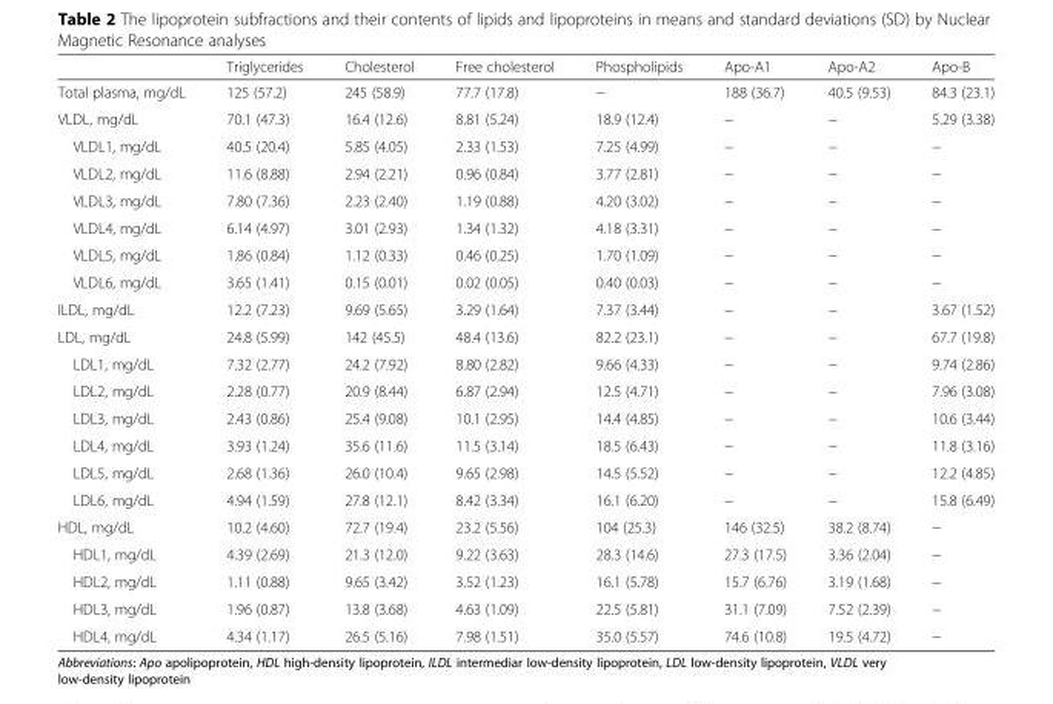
<table><thead><tr><td></td><td>Triglycerides</td><td>Cholesterol</td><td>Free cholesterol</td><td>Phospholipids</td><td>Apo-A1</td><td>Apo-A2</td><td>Apo-B</td></tr></thead><tbody><tr><td>Total plasma, mg/dL</td><td>125 (57.2)</td><td>245 (58.9)</td><td>77.7 (17.8)</td><td>−</td><td>188 (36.7)</td><td>40.5 (9.53)</td><td>84.3 (23.1)</td></tr><tr><td>VLDL, mg/dL</td><td>70.1 (47.3)</td><td>16.4 (12.6)</td><td>8.81 (5.24)</td><td>18.9 (12.4)</td><td>−</td><td>−</td><td>5.29 (3.38)</td></tr><tr><td>VLDL1, mg/dL</td><td>40.5 (20.4)</td><td>5.85 (4.05)</td><td>2.33 (1.53)</td><td>7.25 (4.99)</td><td>−</td><td>−</td><td>−</td></tr><tr><td>VLDL2, mg/dL</td><td>11.6 (8.88)</td><td>2.94 (2.21)</td><td>0.96 (0.84)</td><td>3.77 (2.81)</td><td>−</td><td>−</td><td>−</td></tr><tr><td>VLDL3, mg/dL</td><td>7.80 (7.36)</td><td>2.23 (2.40)</td><td>1.19 (0.88)</td><td>4.20 (3.02)</td><td>−</td><td>−</td><td>−</td></tr><tr><td>VLDL4, mg/dL</td><td>6.14 (4.97)</td><td>3.01 (2.93)</td><td>1.34 (1.32)</td><td>4.18 (3.31)</td><td>−</td><td>−</td><td>−</td></tr><tr><td>VLDL5, mg/dL</td><td>1.86 (0.84)</td><td>1.12 (0.33)</td><td>0.46 (0.25)</td><td>1.70 (1.09)</td><td>−</td><td>−</td><td>−</td></tr><tr><td>VLDL6, mg/dL</td><td>3.65 (1.41)</td><td>0.15 (0.01)</td><td>0.02 (0.05)</td><td>0.40 (0.03)</td><td>−</td><td>−</td><td>−</td></tr><tr><td>ILDL, mg/dL</td><td>12.2 (7.23)</td><td>9.69 (5.65)</td><td>3.29 (1.64)</td><td>7.37 (3.44)</td><td>−</td><td>−</td><td>3.67 (1.52)</td></tr><tr><td>LDL, mg/dL</td><td>24.8 (5.99)</td><td>142 (45.5)</td><td>48.4 (13.6)</td><td>82.2 (23.1)</td><td>−</td><td>−</td><td>67.7 (19.8)</td></tr><tr><td>LDL1, mg/dL</td><td>7.32 (2.77)</td><td>24.2 (7.92)</td><td>8.80 (2.82)</td><td>9.66 (4.33)</td><td>−</td><td>−</td><td>9.74 (2.86)</td></tr><tr><td>LDL2, mg/dL</td><td>2.28 (0.77)</td><td>20.9 (8.44)</td><td>6.87 (2.94)</td><td>12.5 (4.71)</td><td>−</td><td>−</td><td>7.96 (3.08)</td></tr><tr><td>LDL3, mg/dL</td><td>2.43 (0.86)</td><td>25.4 (9.08)</td><td>10.1 (2.95)</td><td>14.4 (4.85)</td><td>−</td><td>−</td><td>10.6 (3.44)</td></tr><tr><td>LDL4, mg/dL</td><td>3.93 (1.24)</td><td>35.6 (11.6)</td><td>11.5 (3.14)</td><td>18.5 (6.43)</td><td>−</td><td>−</td><td>11.8 (3.16)</td></tr><tr><td>LDL5, mg/dL</td><td>2.68 (1.36)</td><td>26.0 (10.4)</td><td>9.65 (2.98)</td><td>14.5 (5.52)</td><td>−</td><td>−</td><td>12.2 (4.85)</td></tr><tr><td>LDL6, mg/dL</td><td>4.94 (1.59)</td><td>27.8 (12.1)</td><td>8.42 (3.34)</td><td>16.1 (6.20)</td><td>−</td><td>−</td><td>15.8 (6.49)</td></tr><tr><td>HDL, mg/dL</td><td>10.2 (4.60)</td><td>72.7 (19.4)</td><td>23.2 (5.56)</td><td>104 (25.3)</td><td>146 (32.5)</td><td>38.2 (8.74)</td><td>−</td></tr><tr><td>HDL1, mg/dL</td><td>4.39 (2.69)</td><td>21.3 (12.0)</td><td>9.22 (3.63)</td><td>28.3 (14.6)</td><td>27.3 (17.5)</td><td>3.36 (2.04)</td><td>−</td></tr><tr><td>HDL2, mg/dL</td><td>1.11 (0.88)</td><td>9.65 (3.42)</td><td>3.52 (1.23)</td><td>16.1 (5.78)</td><td>15.7 (6.76)</td><td>3.19 (1.68)</td><td>−</td></tr><tr><td>HDL3, mg/dL</td><td>1.96 (0.87)</td><td>13.8 (3.68)</td><td>4.63 (1.09)</td><td>22.5 (5.81)</td><td>31.1 (7.09)</td><td>7.52 (2.39)</td><td>−</td></tr><tr><td>HDL4, mg/dL</td><td>4.34 (1.17)</td><td>26.5 (5.16)</td><td>7.98 (1.51)</td><td>35.0 (5.57)</td><td>74.6 (10.8)</td><td>19.5 (4.72)</td><td>−</td></tr></tbody></table>